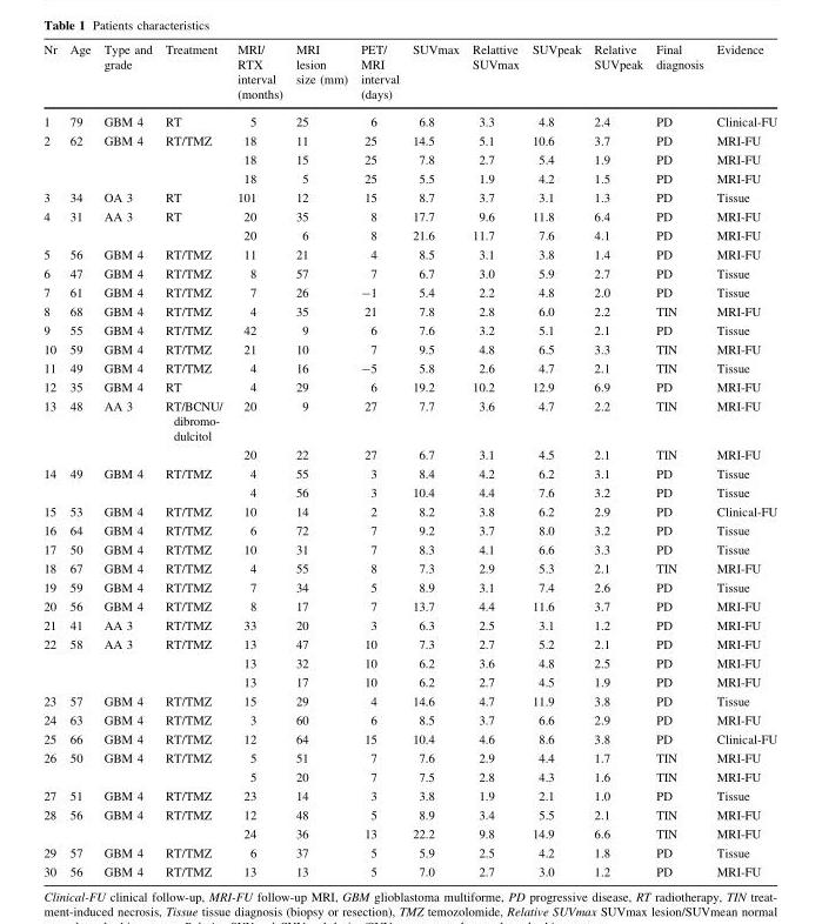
<table><thead><tr><td>Nr</td><td>Age</td><td>Type and grade</td><td>Treatment</td><td>MRI/ RTX interval (months)</td><td>MRI lesion size (mm)</td><td>PET/ MRI interval (days)</td><td>SUVmax</td><td>Relattive SUVmax</td><td>SUVpeak</td><td>Relative SUVpeak</td><td>Final diagnosis</td><td>Evidence</td></tr></thead><tbody><tr><td>1</td><td>79</td><td>GBM 4</td><td>RT</td><td>5</td><td>25</td><td>6</td><td>6.8</td><td>3.3</td><td>4.8</td><td>2.4</td><td>PD</td><td>Clinical-FU</td></tr><tr><td rowspan="3">2</td><td>62</td><td>GBM 4</td><td>RT/TMZ</td><td>18</td><td>11</td><td>25</td><td>14.5</td><td>5.1</td><td>10.6</td><td>3.7</td><td>PD</td><td>MRI-FU</td></tr><tr><td></td><td></td><td></td><td>18</td><td>15</td><td>25</td><td>7.8</td><td>2.7</td><td>5.4</td><td>1.9</td><td>PD</td><td>MRI-FU</td></tr><tr><td></td><td></td><td></td><td>18</td><td>5</td><td>25</td><td>5.5</td><td>1.9</td><td>4.2</td><td>1.5</td><td>PD</td><td>MRI-FU</td></tr><tr><td>3</td><td>34</td><td>OA 3</td><td>RT</td><td>101</td><td>12</td><td>15</td><td>8.7</td><td>3.7</td><td>3.1</td><td>1.3</td><td>PD</td><td>Tissue</td></tr><tr><td rowspan="2">4</td><td>31</td><td>AA 3</td><td>RT</td><td>20</td><td>35</td><td>8</td><td>17.7</td><td>9.6</td><td>11.8</td><td>6.4</td><td>PD</td><td>MRI-FU</td></tr><tr><td></td><td></td><td></td><td>20</td><td>6</td><td>8</td><td>21.6</td><td>11.7</td><td>7.6</td><td>4.1</td><td>PD</td><td>MRI-FU</td></tr><tr><td>5</td><td>56</td><td>GBM 4</td><td>RT/TMZ</td><td>11</td><td>21</td><td>4</td><td>8.5</td><td>3.1</td><td>3.8</td><td>1.4</td><td>PD</td><td>MRI-FU</td></tr><tr><td>6</td><td>47</td><td>GBM 4</td><td>RT/TMZ</td><td>8</td><td>57</td><td>7</td><td>6.7</td><td>3.0</td><td>5.9</td><td>2.7</td><td>PD</td><td>Tissue</td></tr><tr><td>7</td><td>61</td><td>GBM 4</td><td>RT/TMZ</td><td>7</td><td>26</td><td>-1</td><td>5.4</td><td>2.2</td><td>4.8</td><td>2.0</td><td>PD</td><td>Tissue</td></tr><tr><td>8</td><td>68</td><td>GBM 4</td><td>RT/TMZ</td><td>4</td><td>35</td><td>21</td><td>7.8</td><td>2.8</td><td>6.0</td><td>2.2</td><td>TIN</td><td>MRI-FU</td></tr><tr><td>9</td><td>55</td><td>GBM 4</td><td>RT/TMZ</td><td>42</td><td>9</td><td>6</td><td>7.6</td><td>3.2</td><td>5.1</td><td>2.1</td><td>PD</td><td>Tissue</td></tr><tr><td>10</td><td>59</td><td>GBM 4</td><td>RT/TMZ</td><td>21</td><td>10</td><td>7</td><td>9.5</td><td>4.8</td><td>6.5</td><td>3.3</td><td>TIN</td><td>MRI-FU</td></tr><tr><td>11</td><td>49</td><td>GBM 4</td><td>RT/TMZ</td><td>4</td><td>16</td><td>-5</td><td>5.8</td><td>2.6</td><td>4.7</td><td>2.1</td><td>TIN</td><td>Tissue</td></tr><tr><td>12</td><td>35</td><td>GBM 4</td><td>RT</td><td>4</td><td>29</td><td>6</td><td>19.2</td><td>10.2</td><td>12.9</td><td>6.9</td><td>PD</td><td>MRI-FU</td></tr><tr><td rowspan="2">13</td><td>48</td><td>AA 3</td><td>RT/BCNU/ dibromo- dulcitol</td><td>20</td><td>9</td><td>27</td><td>7.7</td><td>3.6</td><td>4.7</td><td>2.2</td><td>TIN</td><td>MRI-FU</td></tr><tr><td></td><td></td><td></td><td>20</td><td>22</td><td>27</td><td>6.7</td><td>3.1</td><td>4.5</td><td>2.1</td><td>TIN</td><td>MRI-FU</td></tr><tr><td rowspan="2">14</td><td>49</td><td>GBM 4</td><td>RT/TMZ</td><td>4</td><td>55</td><td>3</td><td>8.4</td><td>4.2</td><td>6.2</td><td>3.1</td><td>PD</td><td>Tissue</td></tr><tr><td></td><td></td><td></td><td>4</td><td>56</td><td>3</td><td>10.4</td><td>4.4</td><td>7.6</td><td>3.2</td><td>PD</td><td>Tissue</td></tr><tr><td>15</td><td>53</td><td>GBM 4</td><td>RT/TMZ</td><td>10</td><td>14</td><td>2</td><td>8.2</td><td>3.8</td><td>6.2</td><td>2.9</td><td>PD</td><td>Clinical-FU</td></tr><tr><td>16</td><td>64</td><td>GBM 4</td><td>RT/TMZ</td><td>6</td><td>72</td><td>7</td><td>9.2</td><td>3.7</td><td>8.0</td><td>3.2</td><td>PD</td><td>Tissue</td></tr><tr><td>17</td><td>50</td><td>GBM 4</td><td>RT/TMZ</td><td>10</td><td>31</td><td>7</td><td>8.3</td><td>4.1</td><td>6.6</td><td>3.3</td><td>PD</td><td>Tissue</td></tr><tr><td>18</td><td>67</td><td>GBM 4</td><td>RT/TMZ</td><td>4</td><td>55</td><td>8</td><td>7.3</td><td>2.9</td><td>5.3</td><td>2.1</td><td>TIN</td><td>MRI-FU</td></tr><tr><td>19</td><td>59</td><td>GBM 4</td><td>RT/TMZ</td><td>7</td><td>34</td><td>5</td><td>8.9</td><td>3.1</td><td>7.4</td><td>2.6</td><td>PD</td><td>Tissue</td></tr><tr><td>20</td><td>56</td><td>GBM 4</td><td>RT/TMZ</td><td>8</td><td>17</td><td>7</td><td>13.7</td><td>4.4</td><td>11.6</td><td>3.7</td><td>PD</td><td>MRI-FU</td></tr><tr><td>21</td><td>41</td><td>AA 3</td><td>RT/TMZ</td><td>33</td><td>20</td><td>3</td><td>6.3</td><td>2.5</td><td>3.1</td><td>1.2</td><td>PD</td><td>MRI-FU</td></tr><tr><td rowspan="3">22</td><td>58</td><td>AA 3</td><td>RT/TMZ</td><td>13</td><td>47</td><td>10</td><td>7.3</td><td>2.7</td><td>5.2</td><td>2.1</td><td>PD</td><td>MRI-FU</td></tr><tr><td></td><td></td><td></td><td>13</td><td>32</td><td>10</td><td>6.2</td><td>3.6</td><td>4.8</td><td>2.5</td><td>PD</td><td>MRI-FU</td></tr><tr><td></td><td></td><td></td><td>13</td><td>17</td><td>10</td><td>6.2</td><td>2.7</td><td>4.5</td><td>1.9</td><td>PD</td><td>MRI-FU</td></tr><tr><td>23</td><td>57</td><td>GBM 4</td><td>RT/TMZ</td><td>15</td><td>29</td><td>4</td><td>14.6</td><td>4.7</td><td>11.9</td><td>3.8</td><td>PD</td><td>Tissue</td></tr><tr><td>24</td><td>63</td><td>GBM 4</td><td>RT/TMZ</td><td>3</td><td>60</td><td>6</td><td>8.5</td><td>3.7</td><td>6.6</td><td>2.9</td><td>PD</td><td>MRI-FU</td></tr><tr><td>25</td><td>66</td><td>GBM 4</td><td>RT/TMZ</td><td>12</td><td>64</td><td>15</td><td>10.4</td><td>4.6</td><td>8.6</td><td>3.8</td><td>PD</td><td>Clinical-FU</td></tr><tr><td rowspan="2">26</td><td>50</td><td>GBM 4</td><td>RT/TMZ</td><td>5</td><td>51</td><td>7</td><td>7.6</td><td>2.9</td><td>4.4</td><td>1.7</td><td>TIN</td><td>MRI-FU</td></tr><tr><td></td><td></td><td></td><td>5</td><td>20</td><td>7</td><td>7.5</td><td>2.8</td><td>4.3</td><td>1.6</td><td>TIN</td><td>MRI-FU</td></tr><tr><td>27</td><td>51</td><td>GBM 4</td><td>RT/TMZ</td><td>23</td><td>14</td><td>3</td><td>3.8</td><td>1.9</td><td>2.1</td><td>1.0</td><td>PD</td><td>Tissue</td></tr><tr><td rowspan="2">28</td><td>56</td><td>GBM 4</td><td>RT/TMZ</td><td>12</td><td>48</td><td>5</td><td>8.9</td><td>3.4</td><td>5.5</td><td>2.1</td><td>TIN</td><td>MRI-FU</td></tr><tr><td></td><td></td><td></td><td>24</td><td>36</td><td>13</td><td>22.2</td><td>9.8</td><td>14.9</td><td>6.6</td><td>TIN</td><td>MRI-FU</td></tr><tr><td>29</td><td>57</td><td>GBM 4</td><td>RT/TMZ</td><td>6</td><td>37</td><td>5</td><td>5.9</td><td>2.5</td><td>4.2</td><td>1.8</td><td>PD</td><td>Tissue</td></tr><tr><td>30</td><td>56</td><td>GBM 4</td><td>RT/TMZ</td><td>13</td><td>13</td><td>5</td><td>7.0</td><td>2.7</td><td>3.0</td><td>1.2</td><td>PD</td><td>MRI-FU</td></tr></tbody></table>